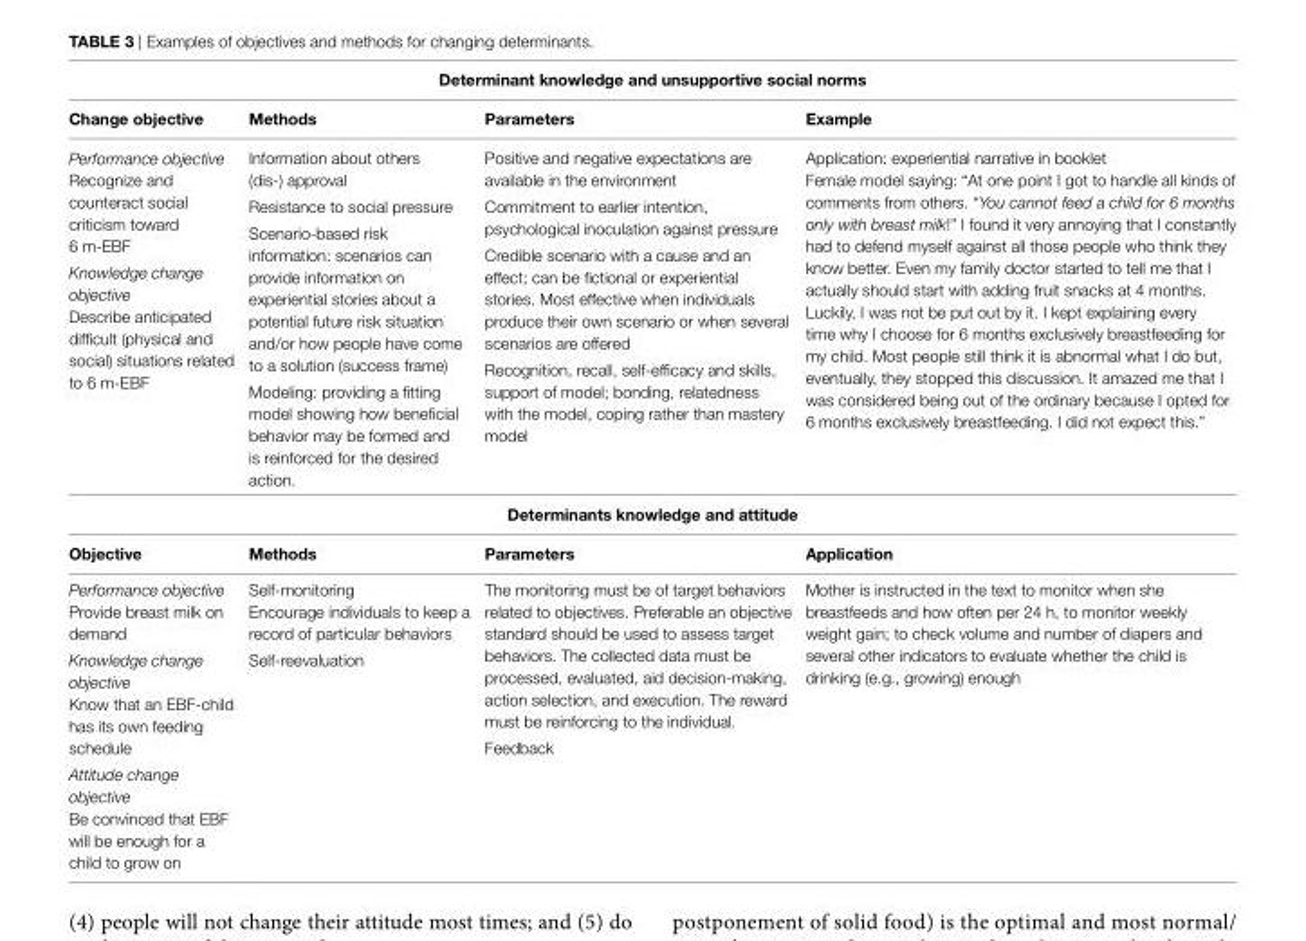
<table><tbody><tr><td colspan="4">Determinant knowledge and unsupportive social norms</td></tr><tr><td>change objective</td><td>Methods</td><td>Parameters</td><td>Example</td></tr><tr><td>Performance objective Recognize and counteract social criticism toward 6 m-EBF Knowledge change objective Describe anticipated difficult (physical and social) situations related to 6 m-EBF</td><td>Information about others (dis-) approval Resistance to social pressure Scenario-based risk information: scenarios can provide information on experiential stories about a potential future risk situation and/or how people have come to a solution (success frame) Modeling: providing a fitting model showing how beneficial behavior may be formed and is reinforced for the desired action.</td><td>Positive and negative expectations are available in the environment Commitment to earlier intention, psychological inoculation against pressure Credible scenario with a cause and an effect; can be fictional or experiential stories. Most effective when individuals produce their own scenario or when several scenarios are offered Recognition, recall, self-efficacy and skills, support of model; bonding, relatedness with the model, coping rather than mastery model</td><td>Application: experiential narrative in booklet Female model saying: “At one point I got to handle all kinds of comments from others. “You cannot feed a child for 6 months only with breast milk!” I found it very annoying that I constantly had to defend myself against all those people who think they know better. Even my family doctor started to tell me that I actually should start with adding fruit snacks at 4 months. Luckily, I was not be put out by it. I kept explaining every time why I choose for 6 months exclusively breastfeeding for my child. Most people still think it is abnormal what I do but, eventually, they stopped this discussion. It amazed me that I was considered being out of the ordinary because I opted for 6 months exclusively breastfeeding. I did not expect this.”</td></tr><tr><td colspan="4">Determinants knowledge and attitude</td></tr><tr><td>objective</td><td>Methods</td><td>Parameters</td><td>Application</td></tr><tr><td>Performance objective Provide breast milk on demand Knowledge change objective Know that an EBF-child has its own feeding schedule Attitude change objective Be convinced that EBF will be enough for a child to grow on</td><td>Self-monitoring Encourage individuals to keep a record of particular behaviors Self-reevaluation</td><td>The monitoring must be of target behaviors related to objectives. Preferable an objective standard should be used to assess target behaviors. The collected data must be processed, evaluated, aid decision-making, action selection, and execution. The reward must be reinforcing to the individual. Feedback</td><td>Mother is instructed in the text to monitor when she breastfeeds and how often per 24 h, to monitor weekly weight gain; to check volume and number of diapers and several other indicators to evaluate whether the child is drinking (e.g., growing) enough</td></tr></tbody></table>